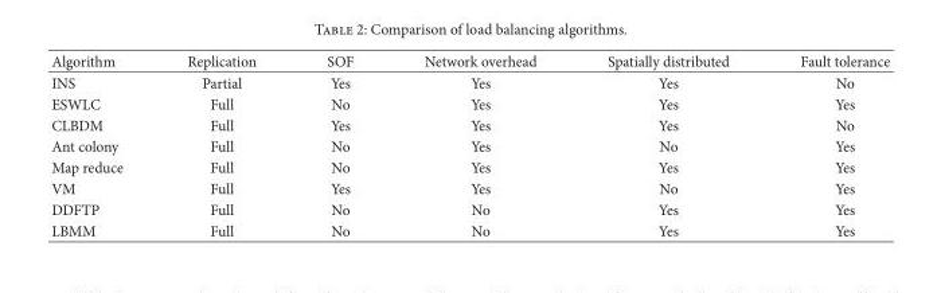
<table><thead><tr><td>Algorithm</td><td>Replication</td><td>SOF</td><td>Network overhead</td><td>Spatially distributed</td><td>Fault tolerance</td></tr></thead><tbody><tr><td>INS</td><td>Partial</td><td>Yes</td><td>Yes</td><td>Yes</td><td>No</td></tr><tr><td>ESWLC</td><td>Full</td><td>No</td><td>Yes</td><td>Yes</td><td>Yes</td></tr><tr><td>CLBDM</td><td>Full</td><td>Yes</td><td>Yes</td><td>Yes</td><td>No</td></tr><tr><td>Ant colony</td><td>Full</td><td>No</td><td>Yes</td><td>No</td><td>Yes</td></tr><tr><td>Map reduce</td><td>Full</td><td>No</td><td>Yes</td><td>Yes</td><td>Yes</td></tr><tr><td>VM</td><td>Full</td><td>Yes</td><td>Yes</td><td>No</td><td>Yes</td></tr><tr><td>DDFTP</td><td>Full</td><td>No</td><td>No</td><td>Yes</td><td>Yes</td></tr><tr><td>LBMM</td><td>Full</td><td>No</td><td>No</td><td>Yes</td><td>Yes</td></tr></tbody></table>